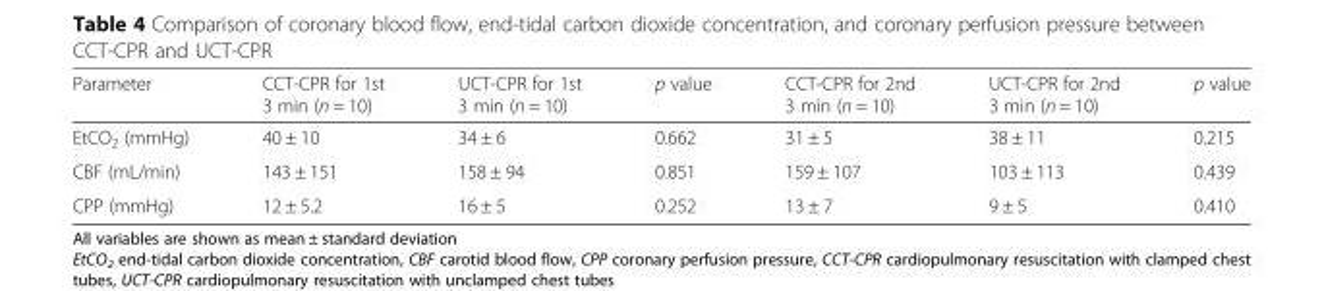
<table><thead><tr><td>Parameter</td><td>CCT-CPR for 1st 3 min (n = 10)</td><td>UCT-CPR for 1st 3 min (n = 10)</td><td>p value</td><td>CCT-CPR for 2nd 3 min (n = 10)</td><td>UCT-CPR for 2nd 3 min (n = 10)</td><td>p value</td></tr></thead><tbody><tr><td>EtCO<sub>2</sub> (mmHg)</td><td>40 ± 10</td><td>34 ± 6</td><td>0.662</td><td>31 ± 5</td><td>38 ± 11</td><td>0.215</td></tr><tr><td>CBF (mL/min)</td><td>143 ± 151</td><td>158 ± 94</td><td>0.851</td><td>159 ± 107</td><td>103 ± 113</td><td>0.439</td></tr><tr><td>CPP (mmHg)</td><td>12 ± 5.2</td><td>16 ± 5</td><td>0.252</td><td>13 ± 7</td><td>9 ± 5</td><td>0.410</td></tr></tbody></table>